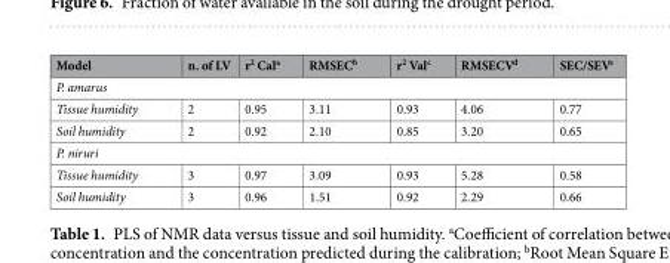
<table><thead><tr><td>Model</td><td>n. of LV</td><td>r<sup>2</sup> Cal<sup>a</sup></td><td>RMSEC<sup>b</sup></td><td>r<sup>2</sup> Val<sup>c</sup></td><td>RMSECV<sup>d</sup></td><td>SEC/SEV<sup>e</sup></td></tr></thead><tbody><tr><td colspan="7">P. amarus</td></tr><tr><td>Tissue humidity</td><td>2</td><td>0.95</td><td>3.11</td><td>0.93</td><td>4.06</td><td>0.77</td></tr><tr><td>Soil humidity</td><td>2</td><td>0.92</td><td>2.10</td><td>0.85</td><td>3.20</td><td>0.65</td></tr><tr><td colspan="7">P. niruri</td></tr><tr><td>Tissue humidity</td><td>3</td><td>0.97</td><td>3.09</td><td>0.93</td><td>5.28</td><td>0.58</td></tr><tr><td>Soil humidity</td><td>3</td><td>0.96</td><td>1.51</td><td>0.92</td><td>2.29</td><td>0.66</td></tr></tbody></table>